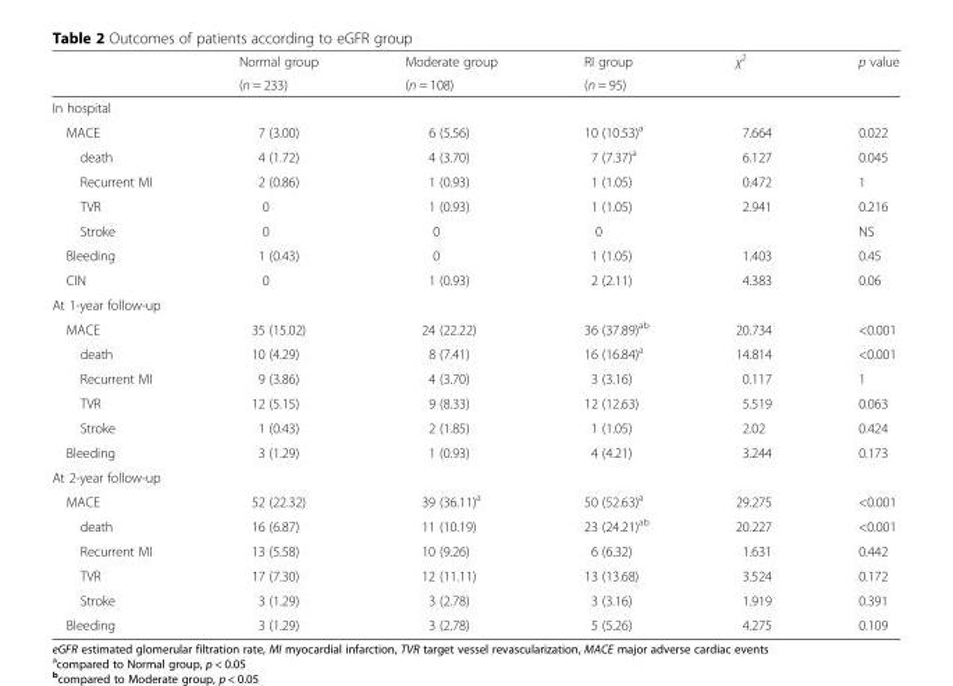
<table><thead><tr><td rowspan="2"></td><td rowspan="2">Normal group (n = 233)</td><td rowspan="2">Moderate group (n = 108)</td><td rowspan="2">RI group (n = 95)</td><td rowspan="2">χ<sup>2</sup></td><td rowspan="2">p value</td></tr><tr></tr></thead><tbody><tr><td colspan="6">In hospital</td></tr><tr><td>MACE</td><td>7 (3.00)</td><td>6 (5.56)</td><td>10 (10.53)<sup>a</sup></td><td>7.664</td><td>0.022</td></tr><tr><td>death</td><td>4 (1.72)</td><td>4 (3.70)</td><td>7 (7.37)<sup>a</sup></td><td>6.127</td><td>0.045</td></tr><tr><td>Recurrent MI</td><td>2 (0.86)</td><td>1 (0.93)</td><td>1 (1.05)</td><td>0.472</td><td>1</td></tr><tr><td>TVR</td><td>0</td><td>1 (0.93)</td><td>1 (1.05)</td><td>2.941</td><td>0.216</td></tr><tr><td>Stroke</td><td>0</td><td>0</td><td>0</td><td></td><td>NS</td></tr><tr><td>Bleeding</td><td>1 (0.43)</td><td>0</td><td>1 (1.05)</td><td>1.403</td><td>0.45</td></tr><tr><td>CIN</td><td>0</td><td>1 (0.93)</td><td>2 (2.11)</td><td>4.383</td><td>0.06</td></tr><tr><td colspan="6">At 1-year follow-up</td></tr><tr><td>MACE</td><td>35 (15.02)</td><td>24 (22.22)</td><td>36 (37.89)<sup>ab</sup></td><td>20.734</td><td>&lt;0.001</td></tr><tr><td>death</td><td>10 (4.29)</td><td>8 (7.41)</td><td>16 (16.84)<sup>a</sup></td><td>14.814</td><td>&lt;0.001</td></tr><tr><td>Recurrent MI</td><td>9 (3.86)</td><td>4 (3.70)</td><td>3 (3.16)</td><td>0.117</td><td>1</td></tr><tr><td>TVR</td><td>12 (5.15)</td><td>9 (8.33)</td><td>12 (12.63)</td><td>5.519</td><td>0.063</td></tr><tr><td>Stroke</td><td>1 (0.43)</td><td>2 (1.85)</td><td>1 (1.05)</td><td>2.02</td><td>0.424</td></tr><tr><td>Bleeding</td><td>3 (1.29)</td><td>1 (0.93)</td><td>4 (4.21)</td><td>3.244</td><td>0.173</td></tr><tr><td colspan="6">At 2-year follow-up</td></tr><tr><td>MACE</td><td>52 (22.32)</td><td>39 (36.11)<sup>a</sup></td><td>50 (52.63)<sup>a</sup></td><td>29.275</td><td>&lt;0.001</td></tr><tr><td>death</td><td>16 (6.87)</td><td>11 (10.19)</td><td>23 (24.21)<sup>ab</sup></td><td>20.227</td><td>&lt;0.001</td></tr><tr><td>Recurrent MI</td><td>13 (5.58)</td><td>10 (9.26)</td><td>6 (6.32)</td><td>1.631</td><td>0.442</td></tr><tr><td>TVR</td><td>17 (7.30)</td><td>12 (11.11)</td><td>13 (13.68)</td><td>3.524</td><td>0.172</td></tr><tr><td>Stroke</td><td>3 (1.29)</td><td>3 (2.78)</td><td>3 (3.16)</td><td>1.919</td><td>0.391</td></tr><tr><td>Bleeding</td><td>3 (1.29)</td><td>3 (2.78)</td><td>5 (5.26)</td><td>4.275</td><td>0.109</td></tr></tbody></table>